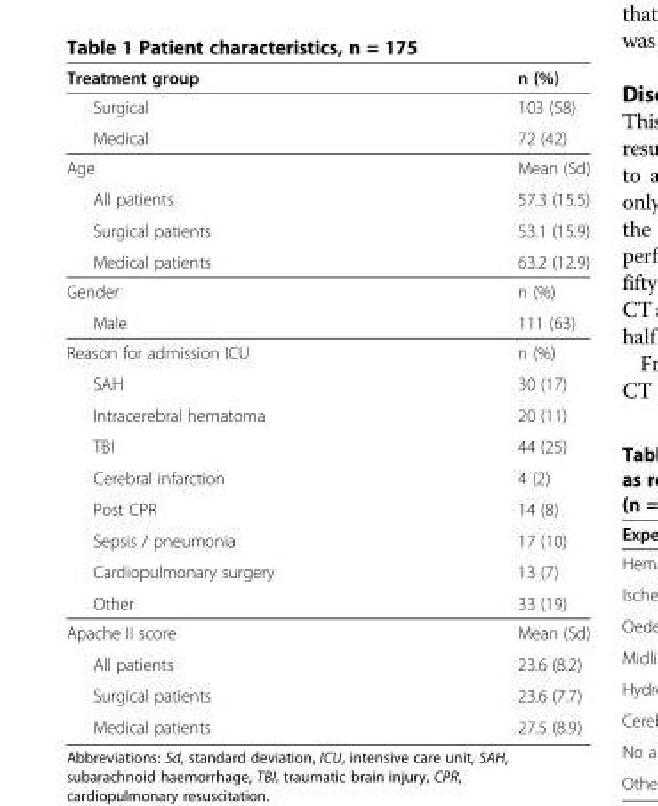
<table><thead><tr><td>Treatment group</td><td>n (%)</td></tr></thead><tbody><tr><td>Surgical</td><td>103 (58)</td></tr><tr><td>Medical</td><td>72 (42)</td></tr><tr><td>Age</td><td>Mean (Sd)</td></tr><tr><td>All patients</td><td>57.3 (15.5)</td></tr><tr><td>Surgical patients</td><td>53.1 (15.9)</td></tr><tr><td>Medical patients</td><td>63.2 (12.9)</td></tr><tr><td>Gender</td><td>n (%)</td></tr><tr><td>Male</td><td>111 (63)</td></tr><tr><td>Reason for admission ICU</td><td>n (%)</td></tr><tr><td>SAH</td><td>30 (17)</td></tr><tr><td>Intracerebral hematoma</td><td>20 (11)</td></tr><tr><td>TBI</td><td>44 (25)</td></tr><tr><td>Cerebral infarction</td><td>4 (2)</td></tr><tr><td>Post CPR</td><td>14 (8)</td></tr><tr><td>Sepsis / pneumonia</td><td>17 (10)</td></tr><tr><td>Cardiopulmonary surgery</td><td>13 (7)</td></tr><tr><td>Other</td><td>33 (19)</td></tr><tr><td>Apache II score</td><td>Mean (Sd)</td></tr><tr><td>All patients</td><td>23.6 (8.2)</td></tr><tr><td>Surgical patients</td><td>23.6 (7.7)</td></tr><tr><td>Medical patients</td><td>27.5 (8.9)</td></tr></tbody></table>